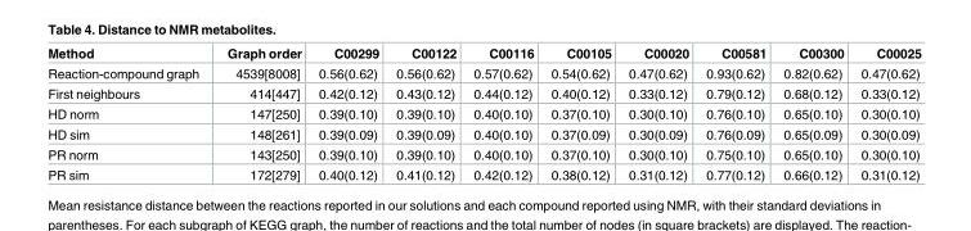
<table><thead><tr><td>Method</td><td>Graph order</td><td>C00299</td><td>C00122</td><td>C00116</td><td>C00105</td><td>C00020</td><td>C00581</td><td>C00300</td><td>C00025</td></tr></thead><tbody><tr><td>Reaction-compound graph</td><td>4539[8008]</td><td>0.56(0.62)</td><td>0.56(0.62)</td><td>0.57(0.62)</td><td>0.54(0.62)</td><td>0.47(0.62)</td><td>0.93(0.62)</td><td>0.82(0.62)</td><td>0.47(0.62)</td></tr><tr><td>First neighbours</td><td>414[447]</td><td>0.42(0.12)</td><td>0.43(0.12)</td><td>0.44(0.12)</td><td>0.40(0.12)</td><td>0.33(0.12)</td><td>0.79(0.12)</td><td>0.68(0.12)</td><td>0.33(0.12)</td></tr><tr><td>HD norm</td><td>147[250]</td><td>0.39(0.10)</td><td>0.39(0.10)</td><td>0.40(0.10)</td><td>0.37(0.10)</td><td>0.30(0.10)</td><td>0.76(0.10)</td><td>0.65(0.10)</td><td>0.30(0.10)</td></tr><tr><td>HD sim</td><td>148[261]</td><td>0.39(0.09)</td><td>0.39(0.09)</td><td>0.40(0.10)</td><td>0.37(0.09)</td><td>0.30(0.09)</td><td>0.76(0.09)</td><td>0.65(0.09)</td><td>0.30(0.09)</td></tr><tr><td>PR norm</td><td>143[250]</td><td>0.39(0.10)</td><td>0.39(0.10)</td><td>0.40(0.10)</td><td>0.37(0.10)</td><td>0.30(0.10)</td><td>0.75(0.10)</td><td>0.65(0.10)</td><td>0.30(0.10)</td></tr><tr><td>PR sim</td><td>172[279]</td><td>0.40(0.12)</td><td>0.41(0.12)</td><td>0.42(0.12)</td><td>0.38(0.12)</td><td>0.31(0.12)</td><td>0.77(0.12)</td><td>0.66(0.12)</td><td>0.31(0.12)</td></tr></tbody></table>